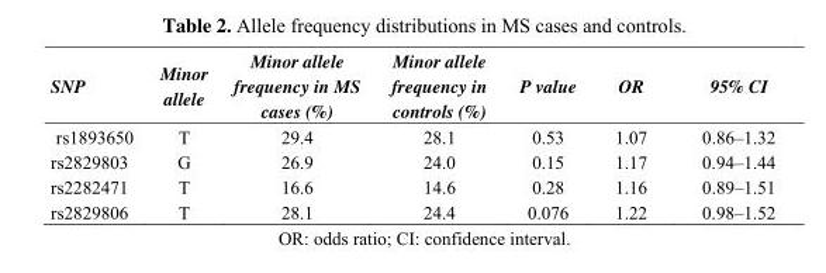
<table><thead><tr><td>SNP</td><td>Minor allele</td><td>Minor allele frequency in MS cases (%)</td><td>Minor allele frequency in controls (%)</td><td>P value</td><td>OR</td><td>95% CI</td></tr></thead><tbody><tr><td>rs1893650</td><td>T</td><td>29.4</td><td>28.1</td><td>0.53</td><td>1.07</td><td>0.86–1.32</td></tr><tr><td>rs2829803</td><td>G</td><td>26.9</td><td>24.0</td><td>0.15</td><td>1.17</td><td>0.94–1.44</td></tr><tr><td>rs2282471</td><td>T</td><td>16.6</td><td>14.6</td><td>0.28</td><td>1.16</td><td>0.89–1.51</td></tr><tr><td>rs2829806</td><td>T</td><td>28.1</td><td>24.4</td><td>0.076</td><td>1.22</td><td>0.98–1.52</td></tr></tbody></table>